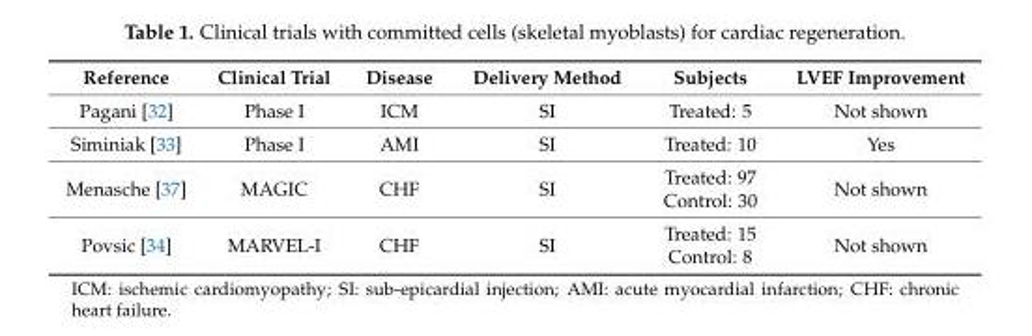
<table><thead><tr><td>Reference</td><td>Clinical Trial</td><td>Disease</td><td>Delivery Method</td><td>Subjects</td><td>LVEF Improvement</td></tr></thead><tbody><tr><td>Pagani [32]</td><td>Phase I</td><td>ICM</td><td>SI</td><td>Treated: 5</td><td>Not shown</td></tr><tr><td>Siminiak [33]</td><td>Phase I</td><td>AMI</td><td>SI</td><td>Treated: 10</td><td>Yes</td></tr><tr><td>Menasche [37]</td><td>MAGIC</td><td>CHF</td><td>SI</td><td>Treated: 97 Control: 30</td><td>Not shown</td></tr><tr><td>Povsic [34]</td><td>MARVEL-I</td><td>CHF</td><td>SI</td><td>Treated: 15 Control: 8</td><td>Not shown</td></tr></tbody></table>